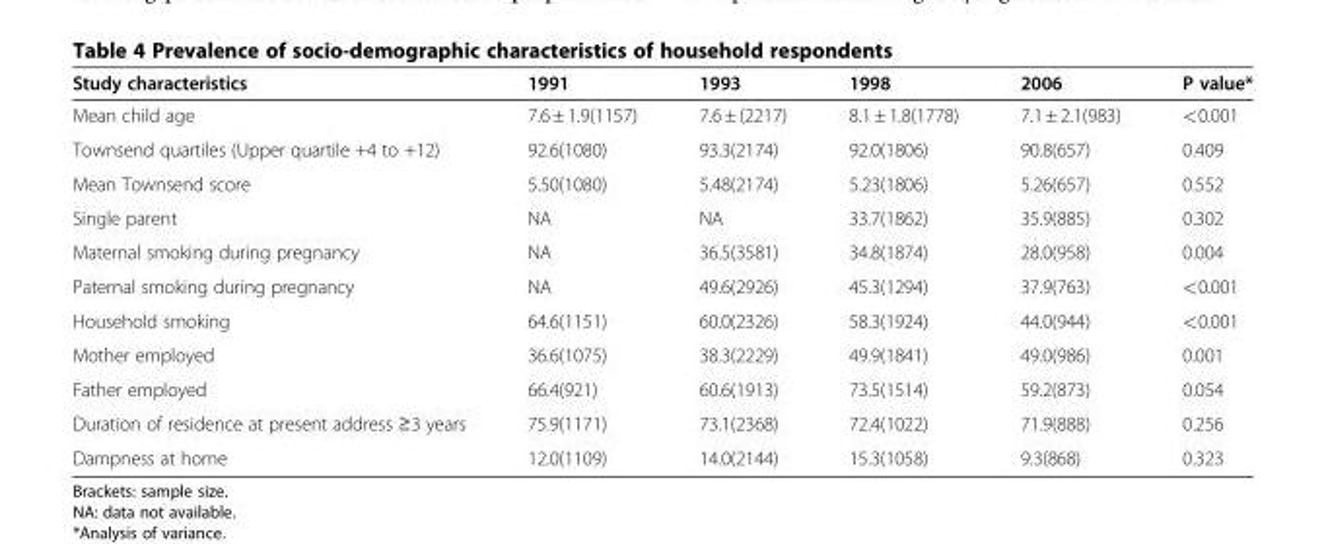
<table><thead><tr><td>Study characteristics</td><td>1991</td><td>1993</td><td>1998</td><td>2006</td><td>P value*</td></tr></thead><tbody><tr><td>Mean child age</td><td>7.6 ± 1.9(1157)</td><td>7.6 ± (2217)</td><td>8.1 ± 1.8(1778)</td><td>7.1 ± 2.1(983)</td><td>&lt;0.001</td></tr><tr><td>Townsend quartiles (Upper quartile +4 to +12)</td><td>92.6(1080)</td><td>93.3(2174)</td><td>92.0(1806)</td><td>90.8(657)</td><td>0.409</td></tr><tr><td>Mean Townsend score</td><td>5.50(1080)</td><td>5.48(2174)</td><td>5.23(1806)</td><td>5.26(657)</td><td>0.552</td></tr><tr><td>Single parent</td><td>NA</td><td>NA</td><td>33.7(1862)</td><td>35.9(885)</td><td>0.302</td></tr><tr><td>Maternal smoking during pregnancy</td><td>NA</td><td>36.5(3581)</td><td>34.8(1874)</td><td>28.0(958)</td><td>0.004</td></tr><tr><td>Paternal smoking during pregnancy</td><td>NA</td><td>49.6(2926)</td><td>45.3(1294)</td><td>37.9(763)</td><td>&lt;0.001</td></tr><tr><td>Household smoking</td><td>64.6(1151)</td><td>60.0(2326)</td><td>58.3(1924)</td><td>44.0(944)</td><td>&lt;0.001</td></tr><tr><td>Mother employed</td><td>36.6(1075)</td><td>38.3(2229)</td><td>49.9(1841)</td><td>49.0(986)</td><td>0.001</td></tr><tr><td>Father employed</td><td>66.4(921)</td><td>60.6(1913)</td><td>73.5(1514)</td><td>59.2(873)</td><td>0.054</td></tr><tr><td>Duration of residence at present address ≥3 years</td><td>75.9(1171)</td><td>73.1(2368)</td><td>72.4(1022)</td><td>71.9(888)</td><td>0.256</td></tr><tr><td>Dampness at home</td><td>12.0(1109)</td><td>14.0(2144)</td><td>15.3(1058)</td><td>9.3(868)</td><td>0.323</td></tr></tbody></table>